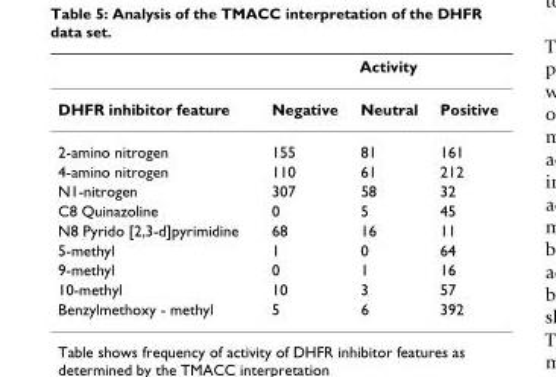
<table><thead><tr><td rowspan="2">DHFR inhibitor feature</td><td colspan="3">Activity</td></tr><tr><td>Negative</td><td>Neutral</td><td>Positive</td></tr></thead><tbody><tr><td>2-amino nitrogen</td><td>155</td><td>81</td><td>161</td></tr><tr><td>4-amino nitrogen</td><td>110</td><td>61</td><td>212</td></tr><tr><td>N1-nitrogen</td><td>307</td><td>58</td><td>32</td></tr><tr><td>C8 Quinazoline</td><td>0</td><td>5</td><td>45</td></tr><tr><td>N8 Pyrido [2,3-d]pyrimidine</td><td>68</td><td>16</td><td>11</td></tr><tr><td>5-methyl</td><td>1</td><td>0</td><td>64</td></tr><tr><td>9-methyl</td><td>0</td><td>1</td><td>16</td></tr><tr><td>10-methyl</td><td>10</td><td>3</td><td>57</td></tr><tr><td>Benzylmethoxy - methyl</td><td>5</td><td>6</td><td>392</td></tr></tbody></table>